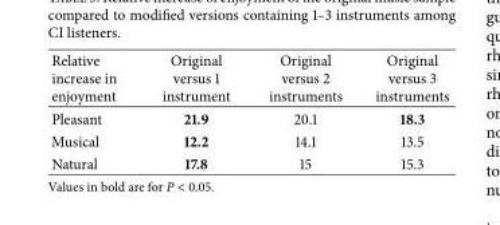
<table><thead><tr><td>Relative increase in enjoyment</td><td>Original versus 1 instrument</td><td>Original versus 2 instruments</td><td>Original versus 3 instruments</td></tr></thead><tbody><tr><td>Pleasant</td><td>21.9</td><td>20.1</td><td>18.3</td></tr><tr><td>Musical</td><td>12.2</td><td>14.1</td><td>13.5</td></tr><tr><td>Natural</td><td>17.8</td><td>15</td><td>15.3</td></tr></tbody></table>